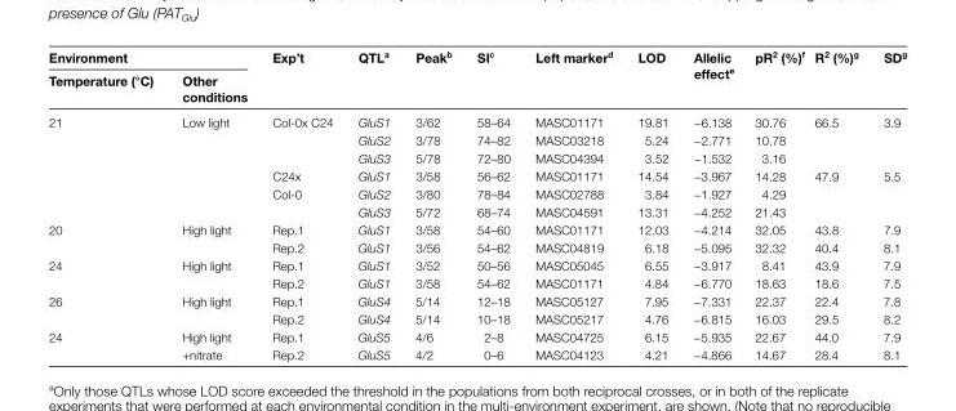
<table><thead><tr><td colspan="2">Environment</td><td rowspan="2">Exp’t</td><td rowspan="2">QTL<sup>a</sup></td><td rowspan="2">Peak<sup>b</sup></td><td rowspan="2">SI<sup>c</sup></td><td rowspan="2">Left marker<sup>d</sup></td><td rowspan="2">LOD</td><td rowspan="2">Allelic effect<sup>e</sup></td><td rowspan="2">pR<sup>2</sup> (%)<sup>f</sup></td><td rowspan="2">R<sup>2</sup> (%)<sup>g</sup></td><td rowspan="2">SD<sup>g</sup></td></tr><tr><td>Temperature (°C)</td><td>Other conditions</td></tr></thead><tbody><tr><td rowspan="2">21</td><td>Low light</td><td>Col-0x C24</td><td>GluS1 GluS2 GluS3</td><td>3/62 3/78 5/78</td><td>58–64 74–82 72–80</td><td>MASC01171 MASC03218 MASC04394</td><td>19.81 5.24 3.52</td><td>−6.138 −2.771 −1.532</td><td>30.76 10.78 3.16</td><td>66.5</td><td>3.9</td></tr><tr><td></td><td>C24x Col-0</td><td>GluS1 GluS2 GluS3</td><td>3/58 3/80 5/72</td><td>56–62 78–84 68–74</td><td>MASC01171 MASC02788 MASC04591</td><td>14.54 3.84 13.31</td><td>−3.967 −1.927 −4.252</td><td>14.28 4.29 21.43</td><td>47.9</td><td>5.5</td></tr><tr><td rowspan="2">20</td><td>High light</td><td>Rep.1</td><td>GluS1</td><td>3/58</td><td>54–60</td><td>MASC01171</td><td>12.03</td><td>−4.214</td><td>32.05</td><td>43.8</td><td>7.9</td></tr><tr><td></td><td>Rep.2</td><td>GluS1</td><td>3/56</td><td>54–62</td><td>MASC04819</td><td>6.18</td><td>−5.095</td><td>32.32</td><td>40.4</td><td>8.1</td></tr><tr><td rowspan="2">24</td><td>High light</td><td>Rep.1</td><td>GluS1</td><td>3/52</td><td>50–56</td><td>MASC05045</td><td>6.55</td><td>−3.917</td><td>8.41</td><td>43.9</td><td>7.9</td></tr><tr><td></td><td>Rep.2</td><td>GluS1</td><td>3/58</td><td>54–62</td><td>MASC01171</td><td>4.84</td><td>−6.770</td><td>18.63</td><td>18.6</td><td>7.5</td></tr><tr><td rowspan="2">26</td><td>High light</td><td>Rep.1</td><td>GluS4</td><td>5/14</td><td>12–18</td><td>MASC05127</td><td>7.95</td><td>−7.331</td><td>22.37</td><td>22.4</td><td>7.8</td></tr><tr><td></td><td>Rep.2</td><td>GluS4</td><td>5/14</td><td>10–18</td><td>MASC05217</td><td>4.76</td><td>−6.815</td><td>16.03</td><td>29.5</td><td>8.2</td></tr><tr><td rowspan="2">24</td><td>High light</td><td>Rep.1</td><td>GluS5</td><td>4/6</td><td>2–8</td><td>MASC04725</td><td>6.15</td><td>−5.935</td><td>22.67</td><td>44.0</td><td>7.9</td></tr><tr><td>+nitrate</td><td>Rep.2</td><td>GluS5</td><td>4/2</td><td>0–6</td><td>MASC04123</td><td>4.21</td><td>−4.866</td><td>14.67</td><td>28.4</td><td>8.1</td></tr></tbody></table>